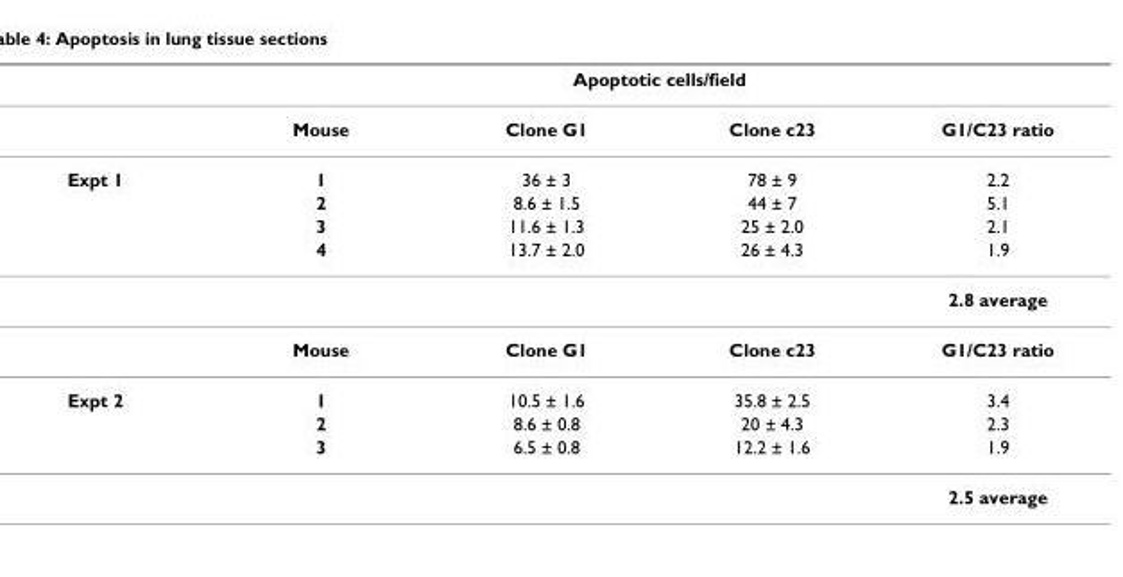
<table><thead><tr><td rowspan="2"></td><td rowspan="2">Mouse</td><td colspan="2">Apoptotic cells/field</td><td rowspan="2">G1/C23 ratio</td></tr><tr><td>Clone G1</td><td>Clone c23</td></tr></thead><tbody><tr><td rowspan="6">Expt 1</td><td>1</td><td>36 ± 3</td><td>78 ± 9</td><td>2.2</td></tr><tr><td>2</td><td>8.6 ± 1.5</td><td>44 ± 7</td><td>5.1</td></tr><tr><td>3</td><td>11.6 ± 1.3</td><td>25 ± 2.0</td><td>2.1</td></tr><tr><td>4</td><td>13.7 ± 2.0</td><td>26 ± 4.3</td><td>1.9</td></tr><tr><td></td><td></td><td></td><td>2.8 average</td></tr><tr><td>Mouse</td><td>Clone G1</td><td>Clone c23</td><td>G1/C23 ratio</td></tr><tr><td rowspan="4">Expt 2</td><td>1</td><td>10.5 ± 1.6</td><td>35.8 ± 2.5</td><td>3.4</td></tr><tr><td>2</td><td>8.6 ± 0.8</td><td>20 ± 4.3</td><td>2.3</td></tr><tr><td>3</td><td>6.5 ± 0.8</td><td>12.2 ± 1.6</td><td>1.9</td></tr><tr><td></td><td></td><td></td><td>2.5 average</td></tr></tbody></table>